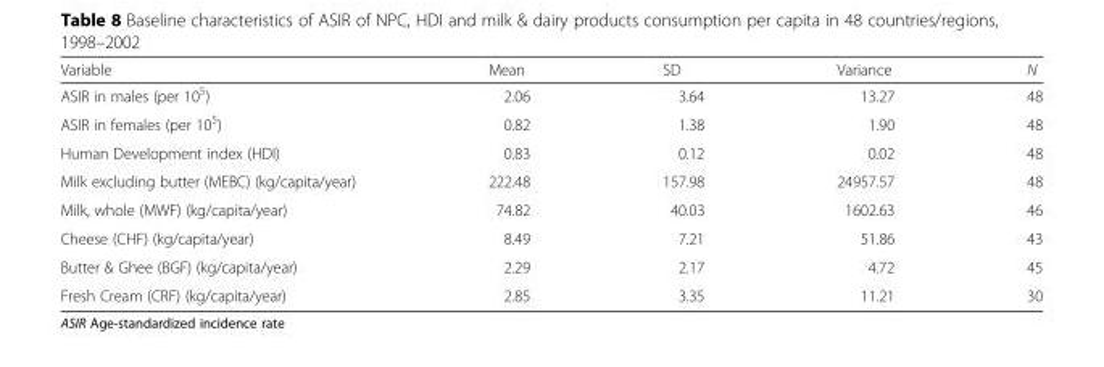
<table><thead><tr><td>Variable</td><td>Mean</td><td>SD</td><td>Variance</td><td>N</td></tr></thead><tbody><tr><td>ASIR in males (per 10<sup>5</sup>)</td><td>2.06</td><td>3.64</td><td>13.27</td><td>48</td></tr><tr><td>ASIR in females (per 10<sup>5</sup>)</td><td>0.82</td><td>1.38</td><td>1.90</td><td>48</td></tr><tr><td>Human Development index (HDI)</td><td>0.83</td><td>0.12</td><td>0.02</td><td>48</td></tr><tr><td>Milk excluding butter (MEBC) (kg/capita/year)</td><td>222.48</td><td>157.98</td><td>24957.57</td><td>48</td></tr><tr><td>Milk, whole (MWF) (kg/capita/year)</td><td>74.82</td><td>40.03</td><td>1602.63</td><td>46</td></tr><tr><td>Cheese (CHF) (kg/capita/year)</td><td>8.49</td><td>7.21</td><td>51.86</td><td>43</td></tr><tr><td>Butter &amp; Ghee (BGF) (kg/capita/year)</td><td>2.29</td><td>2.17</td><td>4.72</td><td>45</td></tr><tr><td>Fresh Cream (CRF) (kg/capita/year)</td><td>2.85</td><td>3.35</td><td>11.21</td><td>30</td></tr></tbody></table>